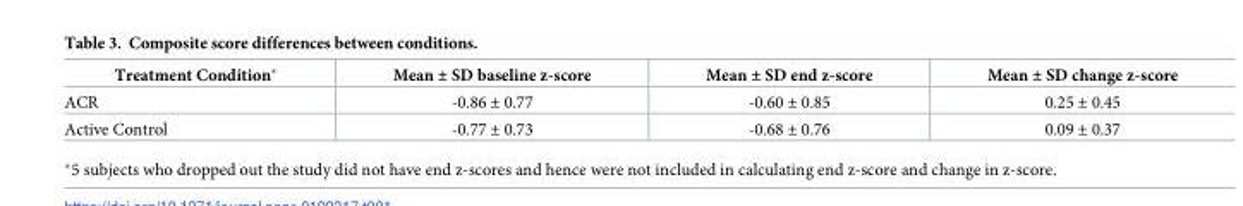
<table><thead><tr><td>Treatment Condition*</td><td>Mean ± SD baseline z-score</td><td>Mean ± SD end z-score</td><td>Mean ± SD change z-score</td></tr></thead><tbody><tr><td>ACR</td><td>-0.86 ± 0.77</td><td>-0.60 ± 0.85</td><td>0.25 ± 0.45</td></tr><tr><td>Active Control</td><td>-0.77 ± 0.73</td><td>-0.68 ± 0.76</td><td>0.09 ± 0.37</td></tr></tbody></table>